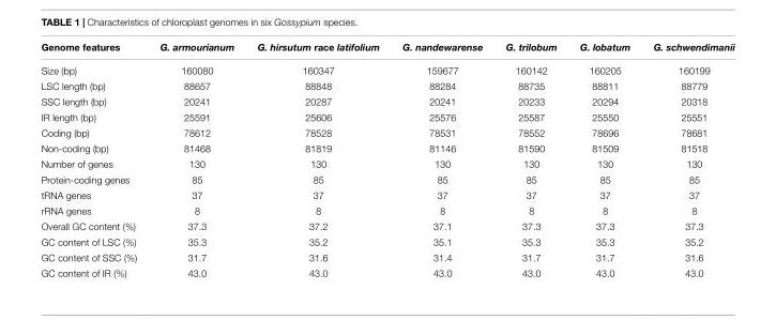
<table><thead><tr><td>Genome features</td><td>G. armourianum</td><td>G. hirsutum race latifolium</td><td>G. nandewarense</td><td>G. trilobum</td><td>G. lobatum</td><td>G. schwendimanii</td></tr></thead><tbody><tr><td>Size (bp)</td><td>160080</td><td>160347</td><td>159677</td><td>160142</td><td>160205</td><td>160199</td></tr><tr><td>LSC length (bp)</td><td>88657</td><td>88848</td><td>88284</td><td>88735</td><td>88811</td><td>88779</td></tr><tr><td>SSC length (bp)</td><td>20241</td><td>20287</td><td>20241</td><td>20233</td><td>20294</td><td>20318</td></tr><tr><td>IR length (bp)</td><td>25591</td><td>25606</td><td>25576</td><td>25587</td><td>25550</td><td>25551</td></tr><tr><td>Coding (bp)</td><td>78612</td><td>78528</td><td>78531</td><td>78552</td><td>78696</td><td>78681</td></tr><tr><td>Non-coding (bp)</td><td>81468</td><td>81819</td><td>81146</td><td>81590</td><td>81509</td><td>81518</td></tr><tr><td>Number of genes</td><td>130</td><td>130</td><td>130</td><td>130</td><td>130</td><td>130</td></tr><tr><td>Protein-coding genes</td><td>85</td><td>85</td><td>85</td><td>85</td><td>85</td><td>85</td></tr><tr><td>tRNA genes</td><td>37</td><td>37</td><td>37</td><td>37</td><td>37</td><td>37</td></tr><tr><td>rRNA genes</td><td>8</td><td>8</td><td>8</td><td>8</td><td>8</td><td>8</td></tr><tr><td>Overall GC content (%)</td><td>37.3</td><td>37.2</td><td>37.1</td><td>37.3</td><td>37.3</td><td>37.3</td></tr><tr><td>GC content of LSC (%)</td><td>35.3</td><td>35.2</td><td>35.1</td><td>35.3</td><td>35.3</td><td>35.2</td></tr><tr><td>GC content of SSC (%)</td><td>31.7</td><td>31.6</td><td>31.4</td><td>31.7</td><td>31.7</td><td>31.6</td></tr><tr><td>GC content of IR (%)</td><td>43.0</td><td>43.0</td><td>43.0</td><td>43.0</td><td>43.0</td><td>43.0</td></tr></tbody></table>